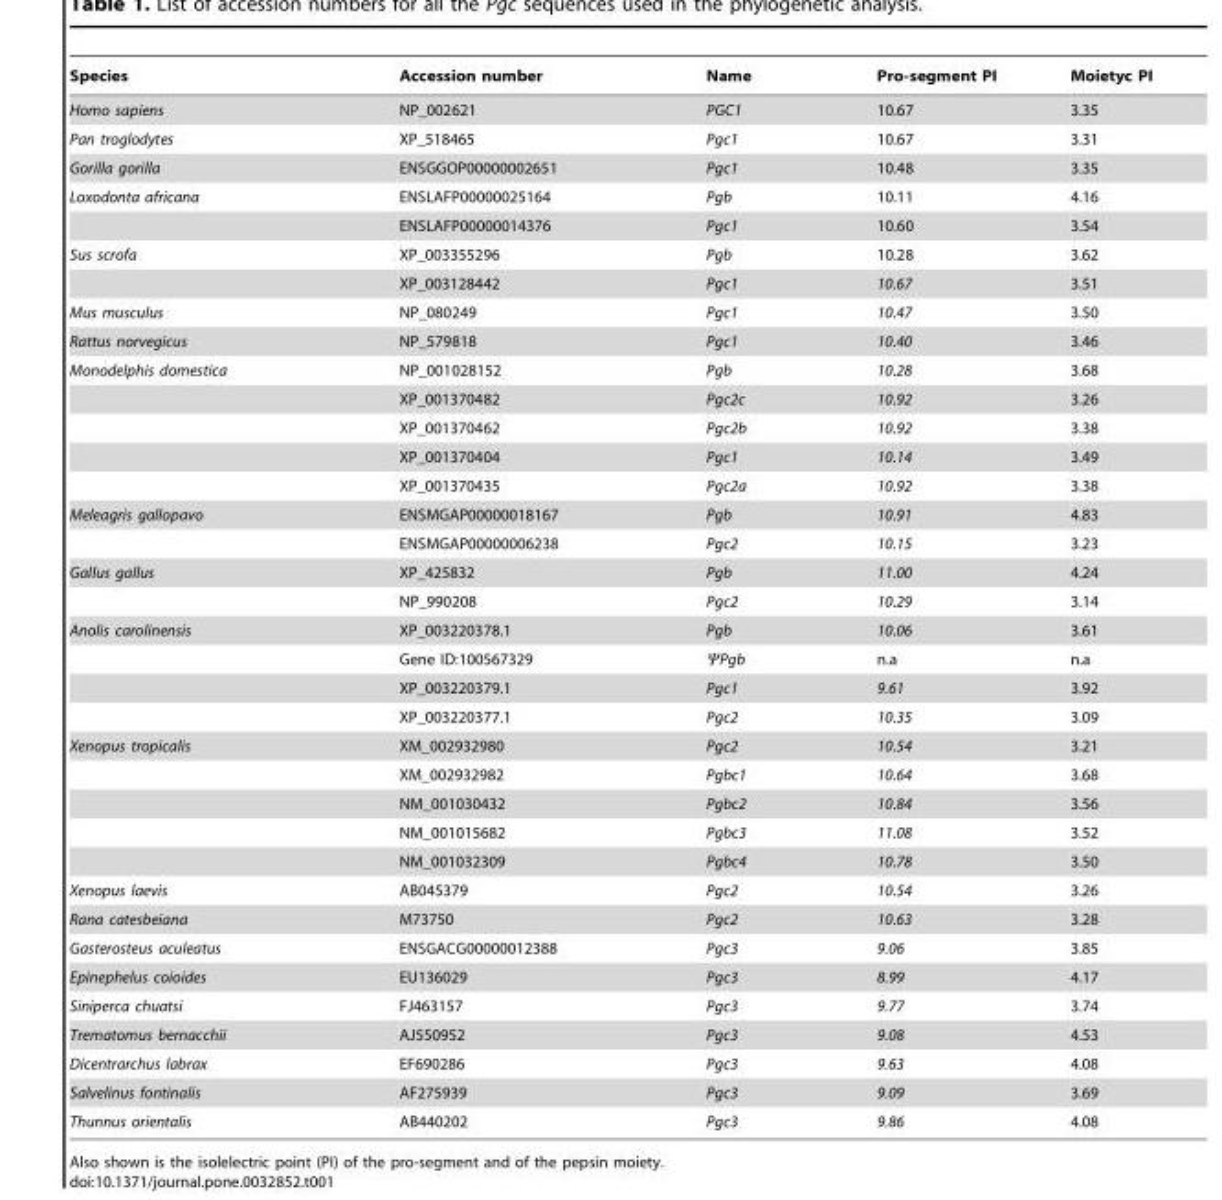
<table><thead><tr><td>Species</td><td>Accession number</td><td>Name</td><td>Pro-segment PI</td><td>Moietyc PI</td></tr></thead><tbody><tr><td>Homo sapiens</td><td>NP_002621</td><td>PGC1</td><td>10.67</td><td>3.35</td></tr><tr><td>Pan troglodytes</td><td>XP_518465</td><td>Pgc1</td><td>10.67</td><td>3.31</td></tr><tr><td>Gorilla gorilla</td><td>ENSGGOP00000002651</td><td>Pgc1</td><td>10.48</td><td>3.35</td></tr><tr><td rowspan="2">Loxodonta africana</td><td>ENSLAFP00000025164</td><td>Pgb</td><td>10.11</td><td>4.16</td></tr><tr><td>ENSLAFP00000014376</td><td>Pgc1</td><td>10.60</td><td>3.54</td></tr><tr><td rowspan="2">Sus scrofa</td><td>XP_003355296</td><td>Pgb</td><td>10.28</td><td>3.62</td></tr><tr><td>XP_003128442</td><td>Pgc1</td><td>10.67</td><td>3.51</td></tr><tr><td>Mus musculus</td><td>NP_080249</td><td>Pgc1</td><td>10.47</td><td>3.50</td></tr><tr><td>Rattus norvegicus</td><td>NP_579818</td><td>Pgc1</td><td>10.40</td><td>3.46</td></tr><tr><td rowspan="5">Monodelphis domestica</td><td>NP_001028152</td><td>Pgb</td><td>10.28</td><td>3.68</td></tr><tr><td>XP_001370482</td><td>Pgc2c</td><td>10.92</td><td>3.26</td></tr><tr><td>XP_001370462</td><td>Pgc2b</td><td>10.92</td><td>3.38</td></tr><tr><td>XP_001370404</td><td>Pgc1</td><td>10.14</td><td>3.49</td></tr><tr><td>XP_001370435</td><td>Pgc2a</td><td>10.92</td><td>3.38</td></tr><tr><td rowspan="2">Meleagris gallopavo</td><td>ENSMGAP00000018167</td><td>Pgb</td><td>10.91</td><td>4.83</td></tr><tr><td>ENSMGAP00000006238</td><td>Pgc2</td><td>10.15</td><td>3.23</td></tr><tr><td rowspan="2">Gallus gallus</td><td>XP_425832</td><td>Pgb</td><td>11.00</td><td>4.24</td></tr><tr><td>NP_990208</td><td>Pgc2</td><td>10.29</td><td>3.14</td></tr><tr><td rowspan="4">Anolis carolinensis</td><td>XP_003220378.1</td><td>Pgb</td><td>10.06</td><td>3.61</td></tr><tr><td>Gene ID:100567329</td><td>ΨPgb</td><td>n.a</td><td>n.a</td></tr><tr><td>XP_003220379.1</td><td>Pgc1</td><td>9.61</td><td>3.92</td></tr><tr><td>XP_003220377.1</td><td>Pgc2</td><td>10.35</td><td>3.09</td></tr><tr><td rowspan="5">Xenopus tropicalis</td><td>XM_002932980</td><td>Pgc2</td><td>10.54</td><td>3.21</td></tr><tr><td>XM_002932982</td><td>Pgbc1</td><td>10.64</td><td>3.68</td></tr><tr><td>NM_001030432</td><td>Pgbc2</td><td>10.84</td><td>3.56</td></tr><tr><td>NM_001015682</td><td>Pgbc3</td><td>11.08</td><td>3.52</td></tr><tr><td>NM_001032309</td><td>Pgbc4</td><td>10.78</td><td>3.50</td></tr><tr><td>Xenopus laevis</td><td>AB045379</td><td>Pgc2</td><td>10.54</td><td>3.26</td></tr><tr><td>Rana catesbeiana</td><td>M73750</td><td>Pgc2</td><td>10.63</td><td>3.28</td></tr><tr><td>Gasterosteus aculeatus</td><td>ENSGACG00000012388</td><td>Pgc3</td><td>9.06</td><td>3.85</td></tr><tr><td>Epinephelus coioides</td><td>EU136029</td><td>Pgc3</td><td>8.99</td><td>4.17</td></tr><tr><td>Siniperca chuatsi</td><td>FJ463157</td><td>Pgc3</td><td>9.77</td><td>3.74</td></tr><tr><td>Trematomus bernacchii</td><td>AJ550952</td><td>Pgc3</td><td>9.08</td><td>4.53</td></tr><tr><td>Dicentrarchus labrax</td><td>EF690286</td><td>Pgc3</td><td>9.63</td><td>4.08</td></tr><tr><td>Salvelinus fontinalis</td><td>AF275939</td><td>Pgc3</td><td>9.09</td><td>3.69</td></tr><tr><td>Thunnus orientalis</td><td>AB440202</td><td>Pgc3</td><td>9.86</td><td>4.08</td></tr></tbody></table>